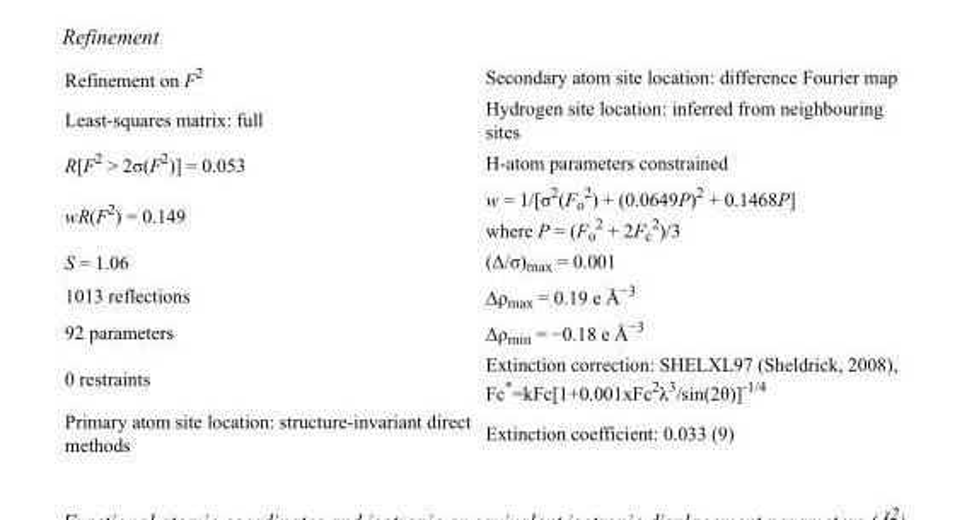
<table><tbody><tr><td>Refinement on F<sup>2</sup></td><td>Secondary atom site location: difference Fourier map</td></tr><tr><td>Least-squares matrix: full</td><td>Hydrogen site location: inferred from neighbouring sites</td></tr><tr><td>R[F<sup>2</sup> &gt; 2σ(F<sup>2</sup>)] = 0.053</td><td>H-atom parameters constrained</td></tr><tr><td>wR(F<sup>2</sup>) = 0.149</td><td>w = 1/[σ<sup>2</sup>(F<sub>o</sub> <sup>2</sup>) + (0.0649P)<sup>2</sup> + 0.1468P] where P = (F<sub>o</sub> <sup>2</sup> + 2F<sub>c</sub> <sup>2</sup>)/3</td></tr><tr><td>S = 1.06</td><td>(Δ/σ)<sub>max</sub> = 0.001</td></tr><tr><td>1013 reflections</td><td>Δρ<sub>max</sub> = 0.19 e Å<sup>−3</sup></td></tr><tr><td>92 parameters</td><td>Δρ<sub>min</sub> = −0.18 e Å<sup>−3</sup></td></tr><tr><td>0 restraints</td><td>Extinction correction: SHELXL97 (Sheldrick, 2008), Fc*=kFc[1+0.001xFc<sup>2</sup>λ<sup>3</sup>/sin(2θ)]<sup>-1/4</sup></td></tr><tr><td>Primary atom site location: structure-invariant direct methods</td><td>Extinction coefficient: 0.033 (9)</td></tr></tbody></table>